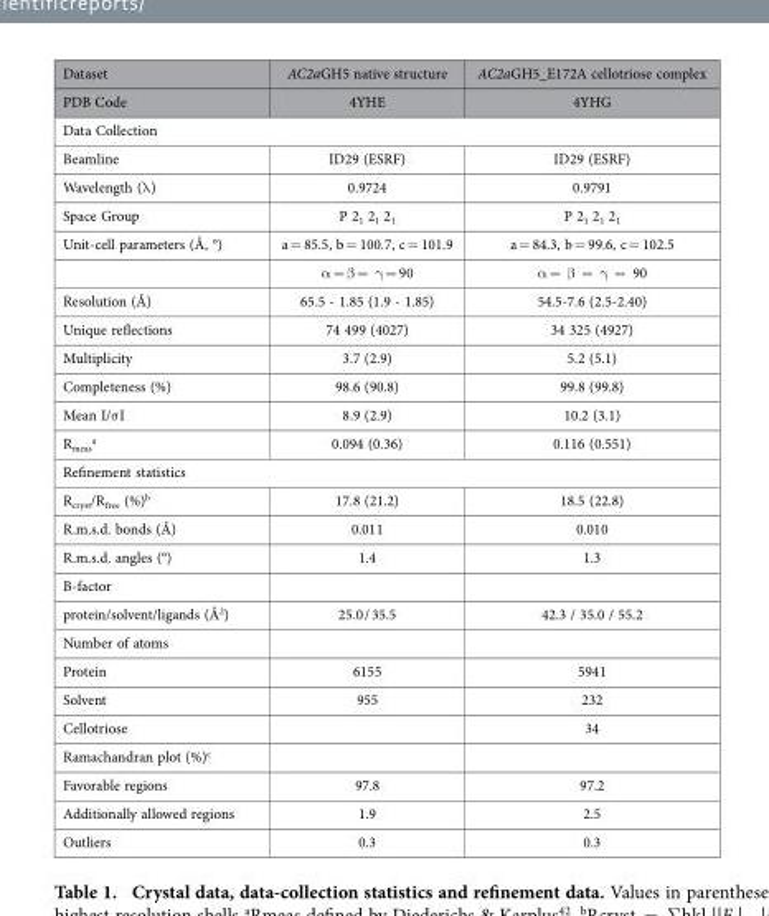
<table><thead><tr><td rowspan="2">Dataset PDB Code</td><td rowspan="2">AC2aGH5 native structure 4YHE</td><td rowspan="2">AC2aGH5_E172A cellotriose complex 4YHG</td></tr><tr></tr></thead><tbody><tr><td colspan="3">Data Collection</td></tr><tr><td>Beamline</td><td>ID29 (ESRF)</td><td>ID29 (ESRF)</td></tr><tr><td>Wavelength (λ )</td><td>0.9724</td><td>0.9791</td></tr><tr><td>Space Group</td><td>P 2<sub>1</sub> 2<sub>1</sub> 2<sub>1</sub></td><td>P 2<sub>1</sub> 2<sub>1</sub> 2<sub>1</sub></td></tr><tr><td rowspan="2">Unit-cell parameters (Å, °)</td><td>a = 85.5, b = 100.7, c = 101.9</td><td>a = 84.3, b = 99.6, c = 102.5</td></tr><tr><td>α = β = γ = 90</td><td>α = β = γ = 90</td></tr><tr><td>Resolution (Å)</td><td>65.5 - 1.85 (1.9 - 1.85)</td><td>54.5-7.6 (2.5-2.40)</td></tr><tr><td>Unique reflections</td><td>74 499 (4027)</td><td>34 325 (4927)</td></tr><tr><td>Multiplicity</td><td>3.7 (2.9)</td><td>5.2 (5.1)</td></tr><tr><td>Completeness (%)</td><td>98.6 (90.8)</td><td>99.8 (99.8)</td></tr><tr><td>Mean I/σ I</td><td>8.9 (2.9)</td><td>10.2 (3.1)</td></tr><tr><td>R<sub>meas</sub> <sup>a</sup></td><td>0.094 (0.36)</td><td>0.116 (0.551)</td></tr><tr><td colspan="3">Refinement statistics</td></tr><tr><td>R<sub>cryst</sub>/R<sub>free</sub> (%)<sup>b</sup></td><td>17.8 (21.2)</td><td>18.5 (22.8)</td></tr><tr><td>R.m.s.d. bonds (Å)</td><td>0.011</td><td>0.010</td></tr><tr><td>R.m.s.d. angles (°)</td><td>1.4</td><td>1.3</td></tr><tr><td colspan="3">B-factor</td></tr><tr><td>protein/solvent/ligands (Å<sup>2</sup>)</td><td>25.0 / 35.5</td><td>42.3 / 35.0 / 55.2</td></tr><tr><td colspan="3">Number of atoms</td></tr><tr><td>Protein</td><td>6155</td><td>5941</td></tr><tr><td>Solvent</td><td>955</td><td>232</td></tr><tr><td>Cellotriose</td><td></td><td>34</td></tr><tr><td colspan="3">Ramachandran plot (%)<sup>c</sup></td></tr><tr><td>Favorable regions</td><td>97.8</td><td>97.2</td></tr><tr><td>Additionally allowed regions</td><td>1.9</td><td>2.5</td></tr><tr><td>Outliers</td><td>0.3</td><td>0.3</td></tr></tbody></table>